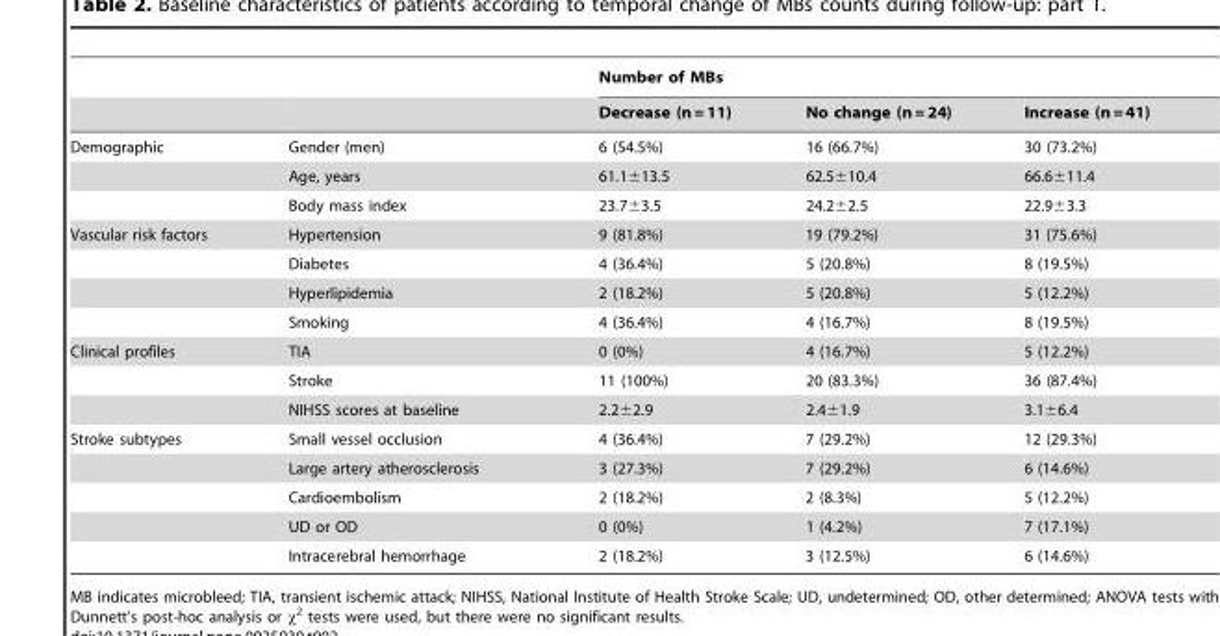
<table><thead><tr><td rowspan="2"></td><td rowspan="2"></td><td colspan="3">Number of MBs</td></tr><tr><td>Decrease (n = 11)</td><td>No change (n = 24)</td><td>Increase (n = 41)</td></tr></thead><tbody><tr><td rowspan="3">Demographic</td><td>Gender (men)</td><td>6 (54.5%)</td><td>16 (66.7%)</td><td>30 (73.2%)</td></tr><tr><td>Age, years</td><td>61.1±13.5</td><td>62.5±10.4</td><td>66.6±11.4</td></tr><tr><td>Body mass index</td><td>23.7±3.5</td><td>24.2±2.5</td><td>22.9±3.3</td></tr><tr><td rowspan="4">Vascular risk factors</td><td>Hypertension</td><td>9 (81.8%)</td><td>19 (79.2%)</td><td>31 (75.6%)</td></tr><tr><td>Diabetes</td><td>4 (36.4%)</td><td>5 (20.8%)</td><td>8 (19.5%)</td></tr><tr><td>Hyperlipidemia</td><td>2 (18.2%)</td><td>5 (20.8%)</td><td>5 (12.2%)</td></tr><tr><td>Smoking</td><td>4 (36.4%)</td><td>4 (16.7%)</td><td>8 (19.5%)</td></tr><tr><td rowspan="3">Clinical profiles</td><td>TIA</td><td>0 (0%)</td><td>4 (16.7%)</td><td>5 (12.2%)</td></tr><tr><td>Stroke</td><td>11 (100%)</td><td>20 (83.3%)</td><td>36 (87.4%)</td></tr><tr><td>NIHSS scores at baseline</td><td>2.2±2.9</td><td>2.4±1.9</td><td>3.1±6.4</td></tr><tr><td rowspan="5">Stroke subtypes</td><td>Small vessel occlusion</td><td>4 (36.4%)</td><td>7 (29.2%)</td><td>12 (29.3%)</td></tr><tr><td>Large artery atherosclerosis</td><td>3 (27.3%)</td><td>7 (29.2%)</td><td>6 (14.6%)</td></tr><tr><td>Cardioembolism</td><td>2 (18.2%)</td><td>2 (8.3%)</td><td>5 (12.2%)</td></tr><tr><td>UD or OD</td><td>0 (0%)</td><td>1 (4.2%)</td><td>7 (17.1%)</td></tr><tr><td>Intracerebral hemorrhage</td><td>2 (18.2%)</td><td>3 (12.5%)</td><td>6 (14.6%)</td></tr></tbody></table>